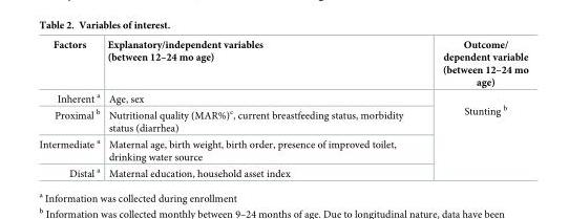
<table><thead><tr><td>Factors</td><td>Explanatory/independent variables (between 12–24 mo age)</td><td>Outcome/ dependent variable (between 12–24 mo age)</td></tr></thead><tbody><tr><td>Inherent <sup>a</sup></td><td>Age, sex</td><td rowspan="4">Stunting <sup>b</sup></td></tr><tr><td>Proximal <sup>b</sup></td><td>Nutritional quality (MAR%)<sup>c</sup>, current breastfeeding status, morbidity status (diarrhea)</td></tr><tr><td>Intermediate <sup>a</sup></td><td>Maternal age, birth weight, birth order, presence of improved toilet, drinking water source</td></tr><tr><td>Distal <sup>a</sup></td><td>Maternal education, household asset index</td></tr></tbody></table>